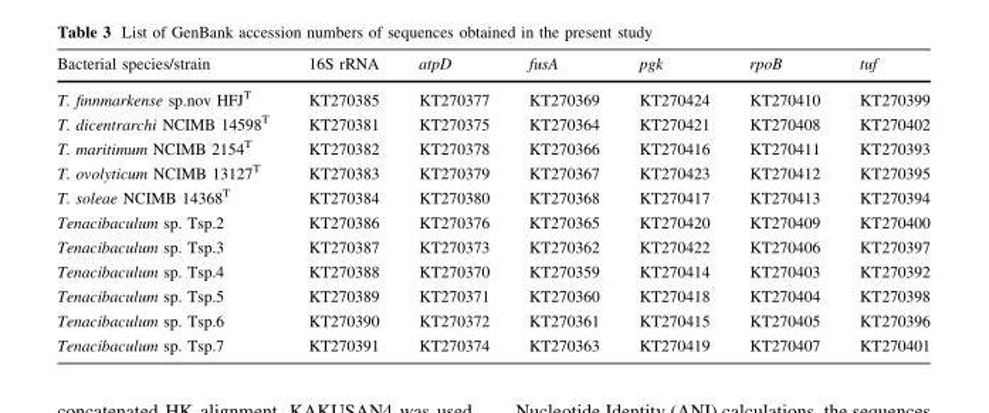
<table><thead><tr><td>Bacterial species/strain</td><td>16S rRNA</td><td>atpD</td><td>fusA</td><td>pgk</td><td>rpoB</td><td>tuf</td></tr></thead><tbody><tr><td>T. finnmarkense sp.nov HFJ<sup>T</sup></td><td>KT270385</td><td>KT270377</td><td>KT270369</td><td>KT270424</td><td>KT270410</td><td>KT270399</td></tr><tr><td>T. dicentrarchi NCIMB 14598<sup>T</sup></td><td>KT270381</td><td>KT270375</td><td>KT270364</td><td>KT270421</td><td>KT270408</td><td>KT270402</td></tr><tr><td>T. maritimum NCIMB 2154<sup>T</sup></td><td>KT270382</td><td>KT270378</td><td>KT270366</td><td>KT270416</td><td>KT270411</td><td>KT270393</td></tr><tr><td>T. ovolyticum NCIMB 13127<sup>T</sup></td><td>KT270383</td><td>KT270379</td><td>KT270367</td><td>KT270423</td><td>KT270412</td><td>KT270395</td></tr><tr><td>T. soleae NCIMB 14368<sup>T</sup></td><td>KT270384</td><td>KT270380</td><td>KT270368</td><td>KT270417</td><td>KT270413</td><td>KT270394</td></tr><tr><td>Tenacibaculum sp. Tsp.2</td><td>KT270386</td><td>KT270376</td><td>KT270365</td><td>KT270420</td><td>KT270409</td><td>KT270400</td></tr><tr><td>Tenacibaculum sp. Tsp.3</td><td>KT270387</td><td>KT270373</td><td>KT270362</td><td>KT270422</td><td>KT270406</td><td>KT270397</td></tr><tr><td>Tenacibaculum sp. Tsp.4</td><td>KT270388</td><td>KT270370</td><td>KT270359</td><td>KT270414</td><td>KT270403</td><td>KT270392</td></tr><tr><td>Tenacibaculum sp. Tsp.5</td><td>KT270389</td><td>KT270371</td><td>KT270360</td><td>KT270418</td><td>KT270404</td><td>KT270398</td></tr><tr><td>Tenacibaculum sp. Tsp.6</td><td>KT270390</td><td>KT270372</td><td>KT270361</td><td>KT270415</td><td>KT270405</td><td>KT270396</td></tr><tr><td>Tenacibaculum sp. Tsp.7</td><td>KT270391</td><td>KT270374</td><td>KT270363</td><td>KT270419</td><td>KT270407</td><td>KT270401</td></tr></tbody></table>